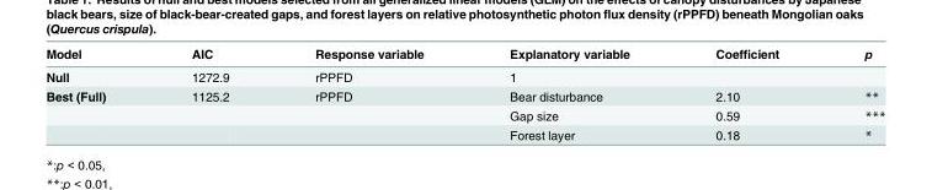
<table><thead><tr><td>Model</td><td>AIC</td><td>Response variable</td><td>Explanatory variable</td><td>Coefficient</td><td>p</td></tr></thead><tbody><tr><td>Null</td><td>1272.9</td><td>rPPFD</td><td>1</td><td></td><td></td></tr><tr><td rowspan="3">Best (Full)</td><td>1125.2</td><td>rPPFD</td><td>Bear disturbance</td><td>2.10</td><td>**</td></tr><tr><td></td><td></td><td>Gap size</td><td>0.59</td><td>***</td></tr><tr><td></td><td></td><td>Forest layer</td><td>0.18</td><td>*</td></tr></tbody></table>